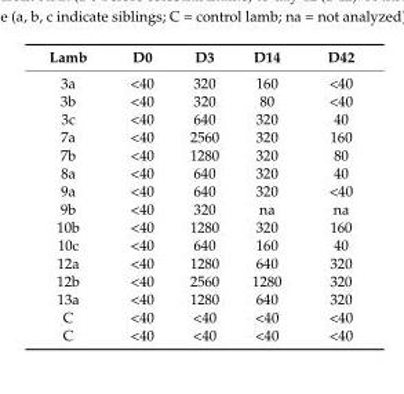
<table><thead><tr><td>Lamb</td><td>D0</td><td>D3</td><td>D14</td><td>D42</td></tr></thead><tbody><tr><td>3a</td><td>&lt;40</td><td>320</td><td>160</td><td>&lt;40</td></tr><tr><td>3b</td><td>&lt;40</td><td>320</td><td>80</td><td>&lt;40</td></tr><tr><td>3c</td><td>&lt;40</td><td>640</td><td>320</td><td>40</td></tr><tr><td>7a</td><td>&lt;40</td><td>2560</td><td>320</td><td>160</td></tr><tr><td>7b</td><td>&lt;40</td><td>1280</td><td>320</td><td>80</td></tr><tr><td>8a</td><td>&lt;40</td><td>640</td><td>320</td><td>40</td></tr><tr><td>9a</td><td>&lt;40</td><td>640</td><td>320</td><td>&lt;40</td></tr><tr><td>9b</td><td>&lt;40</td><td>320</td><td>na</td><td>na</td></tr><tr><td>10b</td><td>&lt;40</td><td>1280</td><td>320</td><td>160</td></tr><tr><td>10c</td><td>&lt;40</td><td>640</td><td>160</td><td>40</td></tr><tr><td>12a</td><td>&lt;40</td><td>1280</td><td>640</td><td>320</td></tr><tr><td>12b</td><td>&lt;40</td><td>2560</td><td>1280</td><td>320</td></tr><tr><td>13a</td><td>&lt;40</td><td>1280</td><td>640</td><td>320</td></tr><tr><td>C</td><td>&lt;40</td><td>&lt;40</td><td>&lt;40</td><td>&lt;40</td></tr><tr><td>C</td><td>&lt;40</td><td>&lt;40</td><td>&lt;40</td><td>&lt;40</td></tr></tbody></table>